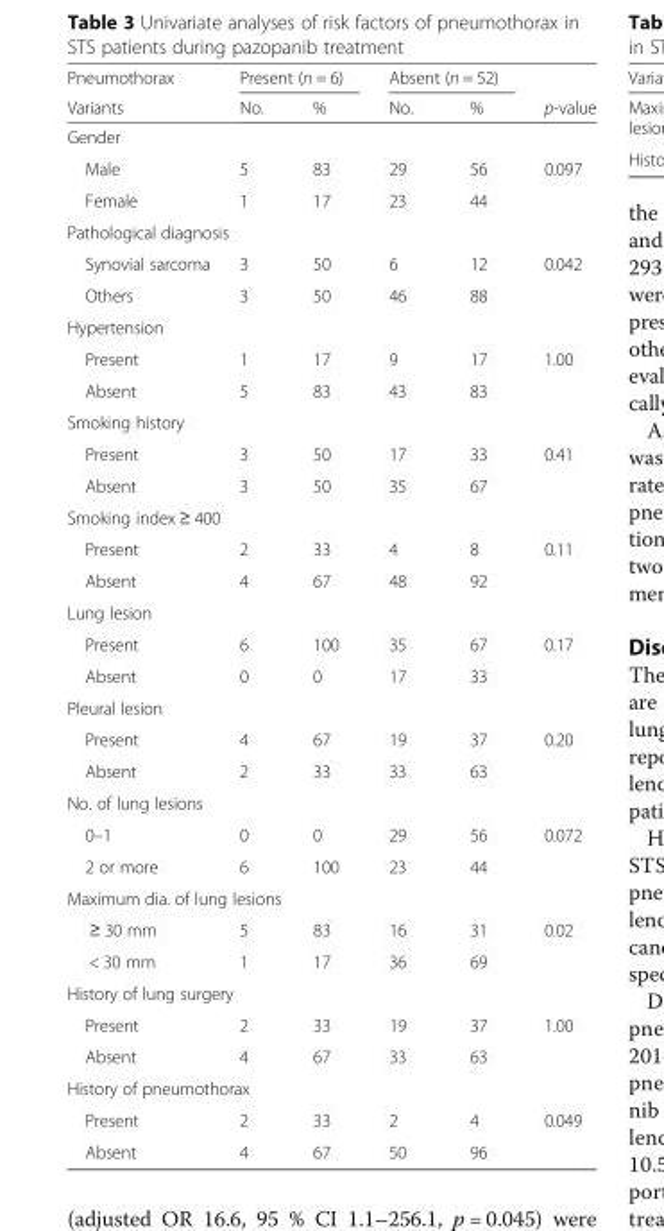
<table><thead><tr><td rowspan="2">Pneumothorax Variants</td><td colspan="2">Present (n = 6)</td><td colspan="2">Absent (n = 52)</td><td rowspan="2">p-value</td></tr><tr><td>No.</td><td>%</td><td>No.</td><td>%</td></tr></thead><tbody><tr><td colspan="6">Gender</td></tr><tr><td>Male</td><td>5</td><td>83</td><td>29</td><td>56</td><td rowspan="2">0.097</td></tr><tr><td>Female</td><td>1</td><td>17</td><td>23</td><td>44</td></tr><tr><td colspan="6">Pathological diagnosis</td></tr><tr><td>Synovial sarcoma</td><td>3</td><td>50</td><td>6</td><td>12</td><td rowspan="2">0.042</td></tr><tr><td>Others</td><td>3</td><td>50</td><td>46</td><td>88</td></tr><tr><td colspan="6">Hypertension</td></tr><tr><td>Present</td><td>1</td><td>17</td><td>9</td><td>17</td><td rowspan="2">1.00</td></tr><tr><td>Absent</td><td>5</td><td>83</td><td>43</td><td>83</td></tr><tr><td colspan="6">Smoking history</td></tr><tr><td>Present</td><td>3</td><td>50</td><td>17</td><td>33</td><td rowspan="2">0.41</td></tr><tr><td>Absent</td><td>3</td><td>50</td><td>35</td><td>67</td></tr><tr><td colspan="6">Smoking index ≥ 400</td></tr><tr><td>Present</td><td>2</td><td>33</td><td>4</td><td>8</td><td rowspan="2">0.11</td></tr><tr><td>Absent</td><td>4</td><td>67</td><td>48</td><td>92</td></tr><tr><td colspan="6">Lung lesion</td></tr><tr><td>Present</td><td>6</td><td>100</td><td>35</td><td>67</td><td rowspan="2">0.17</td></tr><tr><td>Absent</td><td>0</td><td>0</td><td>17</td><td>33</td></tr><tr><td colspan="6">Pleural lesion</td></tr><tr><td>Present</td><td>4</td><td>67</td><td>19</td><td>37</td><td rowspan="2">0.20</td></tr><tr><td>Absent</td><td>2</td><td>33</td><td>33</td><td>63</td></tr><tr><td colspan="6">No. of lung lesions</td></tr><tr><td>0–1</td><td>0</td><td>0</td><td>29</td><td>56</td><td rowspan="2">0.072</td></tr><tr><td>2 or more</td><td>6</td><td>100</td><td>23</td><td>44</td></tr><tr><td colspan="6">Maximum dia. of lung lesions</td></tr><tr><td>≥ 30 mm</td><td>5</td><td>83</td><td>16</td><td>31</td><td rowspan="2">0.02</td></tr><tr><td>&lt; 30 mm</td><td>1</td><td>17</td><td>36</td><td>69</td></tr><tr><td colspan="6">History of lung surgery</td></tr><tr><td>Present</td><td>2</td><td>33</td><td>19</td><td>37</td><td rowspan="2">1.00</td></tr><tr><td>Absent</td><td>4</td><td>67</td><td>33</td><td>63</td></tr><tr><td colspan="6">History of pneumothorax</td></tr><tr><td>Present</td><td>2</td><td>33</td><td>2</td><td>4</td><td rowspan="2">0.049</td></tr><tr><td>Absent</td><td>4</td><td>67</td><td>50</td><td>96</td></tr></tbody></table>